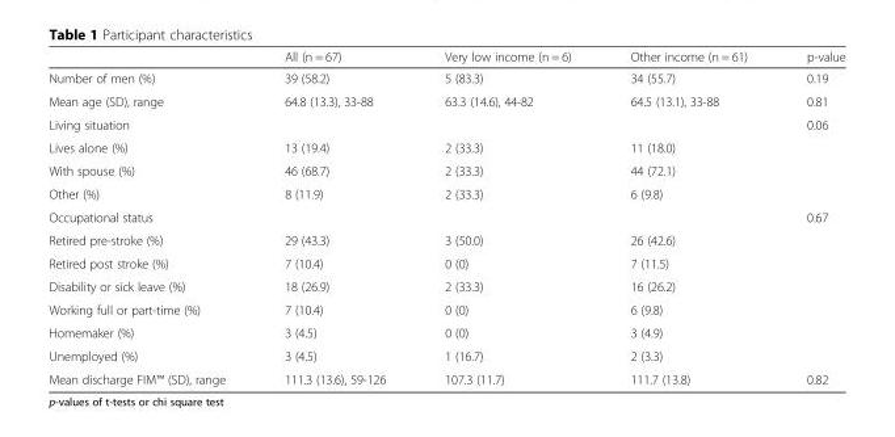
<table><thead><tr><td></td><td>All (n = 67)</td><td>Very low income (n = 6)</td><td>Other income (n = 61)</td><td>p-value</td></tr></thead><tbody><tr><td>Number of men (%)</td><td>39 (58.2)</td><td>5 (83.3)</td><td>34 (55.7)</td><td>0.19</td></tr><tr><td>Mean age (SD), range</td><td>64.8 (13.3), 33-88</td><td>63.3 (14.6), 44-82</td><td>64.5 (13.1), 33-88</td><td>0.81</td></tr><tr><td>Living situation</td><td></td><td></td><td></td><td>0.06</td></tr><tr><td>Lives alone (%)</td><td>13 (19.4)</td><td>2 (33.3)</td><td>11 (18.0)</td><td></td></tr><tr><td>With spouse (%)</td><td>46 (68.7)</td><td>2 (33.3)</td><td>44 (72.1)</td><td></td></tr><tr><td>Other (%)</td><td>8 (11.9)</td><td>2 (33.3)</td><td>6 (9.8)</td><td></td></tr><tr><td>Occupational status</td><td></td><td></td><td></td><td>0.67</td></tr><tr><td>Retired pre-stroke (%)</td><td>29 (43.3)</td><td>3 (50.0)</td><td>26 (42.6)</td><td></td></tr><tr><td>Retired post stroke (%)</td><td>7 (10.4)</td><td>0 (0)</td><td>7 (11.5)</td><td></td></tr><tr><td>Disability or sick leave (%)</td><td>18 (26.9)</td><td>2 (33.3)</td><td>16 (26.2)</td><td></td></tr><tr><td>Working full or part-time (%)</td><td>7 (10.4)</td><td>0 (0)</td><td>6 (9.8)</td><td></td></tr><tr><td>Homemaker (%)</td><td>3 (4.5)</td><td>0 (0)</td><td>3 (4.9)</td><td></td></tr><tr><td>Unemployed (%)</td><td>3 (4.5)</td><td>1 (16.7)</td><td>2 (3.3)</td><td></td></tr><tr><td>Mean discharge FIM™ (SD), range</td><td>111.3 (13.6), 59-126</td><td>107.3 (11.7)</td><td>111.7 (13.8)</td><td>0.82</td></tr></tbody></table>